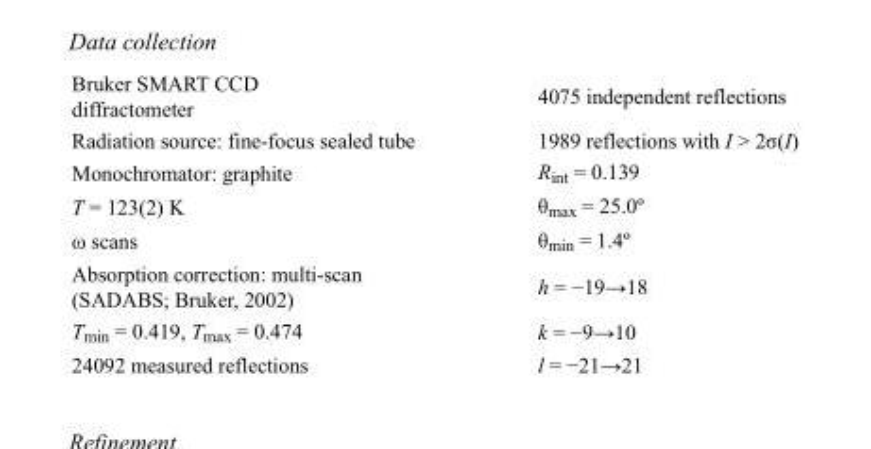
<table><tbody><tr><td>Bruker SMART CCD diffractometer</td><td>4075 independent reflections</td></tr><tr><td>Radiation source: fine-focus sealed tube</td><td>1989 reflections with I &gt; 2σ(I)</td></tr><tr><td>Monochromator: graphite</td><td>R<sub>int</sub> = 0.139</td></tr><tr><td>T = 123(2) K</td><td>θ<sub>max</sub> = 25.0º</td></tr><tr><td>ω scans</td><td>θ<sub>min</sub> = 1.4º</td></tr><tr><td>Absorption correction: multi-scan (SADABS; Bruker, 2002)</td><td>h = −19→18</td></tr><tr><td>T<sub>min</sub> = 0.419, T<sub>max</sub> = 0.474</td><td>k = −9→10</td></tr><tr><td>24092 measured reflections</td><td>l = −21→21</td></tr></tbody></table>